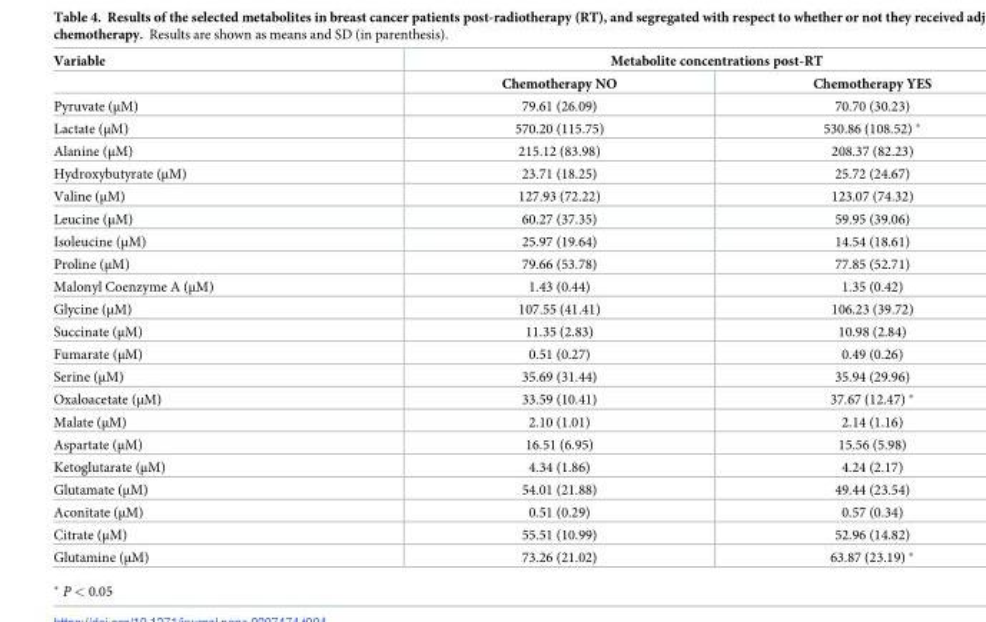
<table><thead><tr><td rowspan="2">Variable</td><td colspan="2">Metabolite concentrations post-RT</td></tr><tr><td>Chemotherapy NO</td><td>Chemotherapy YES</td></tr></thead><tbody><tr><td>Pyruvate (μM)</td><td>79.61 (26.09)</td><td>70.70 (30.23)</td></tr><tr><td>Lactate (μM)</td><td>570.20 (115.75)</td><td>530.86 (108.52) *</td></tr><tr><td>Alanine (μM)</td><td>215.12 (83.98)</td><td>208.37 (82.23)</td></tr><tr><td>Hydroxybutyrate (μM)</td><td>23.71 (18.25)</td><td>25.72 (24.67)</td></tr><tr><td>Valine (μM)</td><td>127.93 (72.22)</td><td>123.07 (74.32)</td></tr><tr><td>Leucine (μM)</td><td>60.27 (37.35)</td><td>59.95 (39.06)</td></tr><tr><td>Isoleucine (μM)</td><td>25.97 (19.64)</td><td>14.54 (18.61)</td></tr><tr><td>Proline (μM)</td><td>79.66 (53.78)</td><td>77.85 (52.71)</td></tr><tr><td>Malonyl Coenzyme A (μM)</td><td>1.43 (0.44)</td><td>1.35 (0.42)</td></tr><tr><td>Glycine (μM)</td><td>107.55 (41.41)</td><td>106.23 (39.72)</td></tr><tr><td>Succinate (μM)</td><td>11.35 (2.83)</td><td>10.98 (2.84)</td></tr><tr><td>Fumarate (μM)</td><td>0.51 (0.27)</td><td>0.49 (0.26)</td></tr><tr><td>Serine (μM)</td><td>35.69 (31.44)</td><td>35.94 (29.96)</td></tr><tr><td>Oxaloacetate (μM)</td><td>33.59 (10.41)</td><td>37.67 (12.47) *</td></tr><tr><td>Malate (μM)</td><td>2.10 (1.01)</td><td>2.14 (1.16)</td></tr><tr><td>Aspartate (μM)</td><td>16.51 (6.95)</td><td>15.56 (5.98)</td></tr><tr><td>Ketoglutarate (μM)</td><td>4.34 (1.86)</td><td>4.24 (2.17)</td></tr><tr><td>Glutamate (μM)</td><td>54.01 (21.88)</td><td>49.44 (23.54)</td></tr><tr><td>Aconitate (μM)</td><td>0.51 (0.29)</td><td>0.57 (0.34)</td></tr><tr><td>Citrate (μM)</td><td>55.51 (10.99)</td><td>52.96 (14.82)</td></tr><tr><td>Glutamine (μM)</td><td>73.26 (21.02)</td><td>63.87 (23.19) *</td></tr></tbody></table>